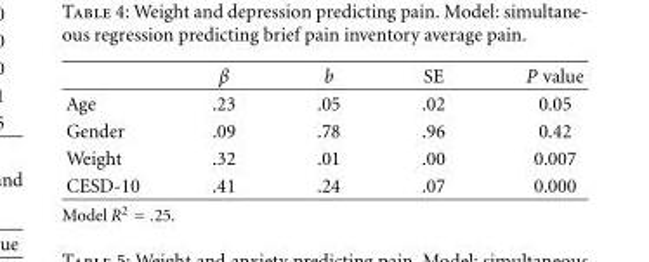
<table><thead><tr><td></td><td>β</td><td>b</td><td>SE</td><td>P value</td></tr></thead><tbody><tr><td>Age</td><td>.23</td><td>.05</td><td>.02</td><td>0.05</td></tr><tr><td>Gender</td><td>.09</td><td>.78</td><td>.96</td><td>0.42</td></tr><tr><td>Weight</td><td>.32</td><td>.01</td><td>.00</td><td>0.007</td></tr><tr><td>CESD-10</td><td>.41</td><td>.24</td><td>.07</td><td>0.000</td></tr></tbody></table>